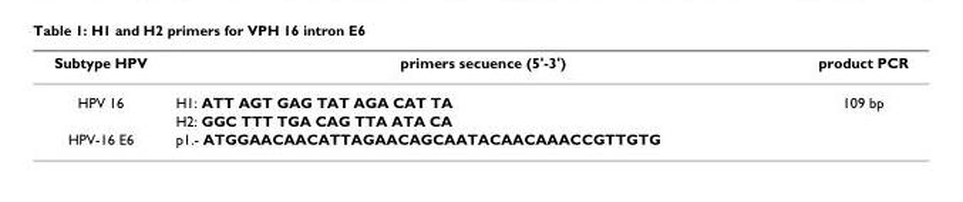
<table><thead><tr><td>Subtype HPV</td><td>primers secuence (5&#x27;-3&#x27;)</td><td>product PCR</td></tr></thead><tbody><tr><td rowspan="2">HPV 16</td><td>H1: ATT AGT GAG TAT AGA CAT TA</td><td>109 bp</td></tr><tr><td>H2: GGC TTT TGA CAG TTA ATA CA</td><td></td></tr><tr><td>HPV-16 E6</td><td>p1.- ATGGAACAACATTAGAACAGCAATACAACAAACCGTTGTG</td><td></td></tr></tbody></table>